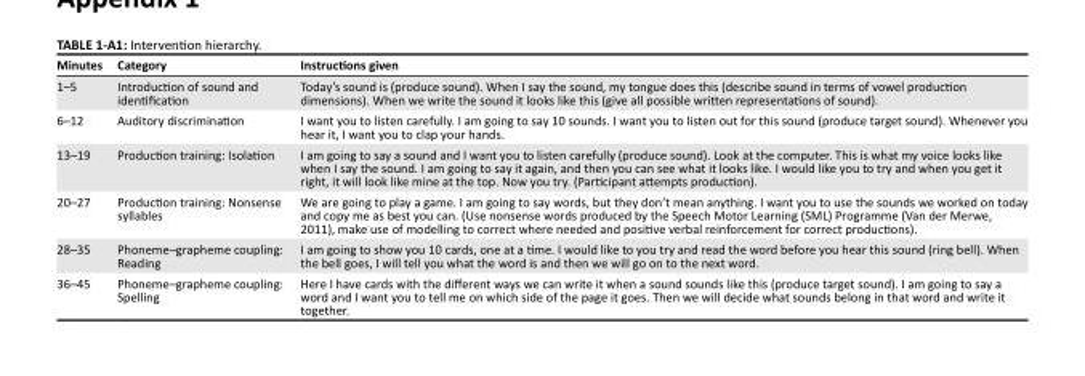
<table><thead><tr><td>Minutes</td><td>Category</td><td>Instructions given</td></tr></thead><tbody><tr><td>1–5</td><td>Introduction of sound and identification</td><td>Today’s sound is (produce sound). When I say the sound, my tongue does this (describe sound in terms of vowel production dimensions). When we write the sound it looks like this (give all possible written representations of sound).</td></tr><tr><td>6–12</td><td>Auditory discrimination</td><td>I want you to listen carefully. I am going to say 10 sounds. I want you to listen out for this sound (produce target sound). Whenever you hear it, I want you to clap your hands.</td></tr><tr><td>13–19</td><td>Production training: Isolation</td><td>I am going to say a sound and I want you to listen carefully (produce sound). Look at the computer. This is what my voice looks like when I say the sound. I am going to say it again, and then you can see what it looks like. I would like you to try and when you get it right, it will look like mine at the top. Now you try. (Participant attempts production).</td></tr><tr><td>20–27</td><td>Production training: Nonsense syllables</td><td>We are going to play a game. I am going to say words, but they don’t mean anything. I want you to use the sounds we worked on today and copy me as best you can. (Use nonsense words produced by the Speech Motor Learning (SML) Programme (Van der Merwe, 2011), make use of modelling to correct where needed and positive verbal reinforcement for correct productions).</td></tr><tr><td>28–35</td><td>Phoneme–grapheme coupling: Reading</td><td>I am going to show you 10 cards, one at a time. I would like to you try and read the word before you hear this sound (ring bell). When the bell goes, I will tell you what the word is and then we will go on to the next word.</td></tr><tr><td>36–45</td><td>Phoneme–grapheme coupling: Spelling</td><td>Here I have cards with the different ways we can write it when a sound sounds like this (produce target sound). I am going to say a word and I want you to tell me on which side of the page it goes. Then we will decide what sounds belong in that word and write it together.</td></tr></tbody></table>